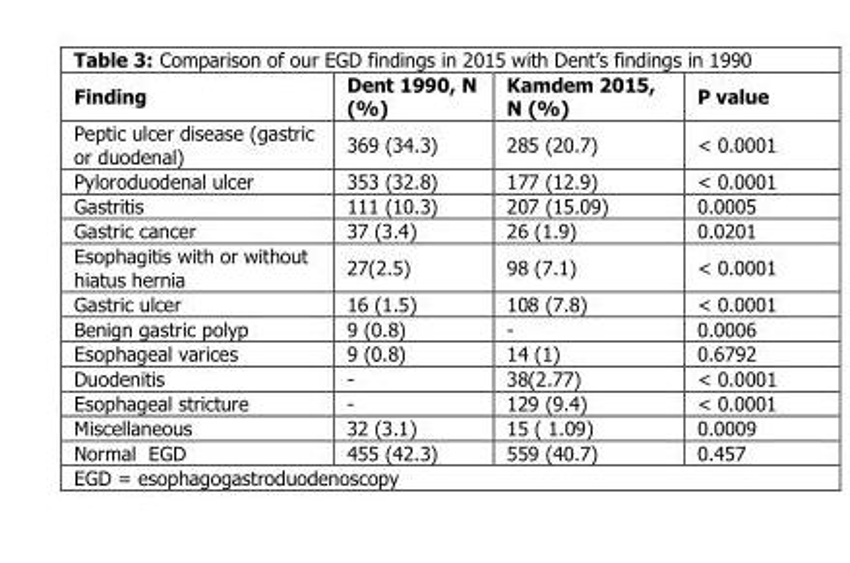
<table><thead><tr><td>Finding</td><td>Dent 1990, N (%)</td><td>Kamdem 2015, N (%)</td><td>P value</td></tr></thead><tbody><tr><td>Peptic ulcer disease (gastric or duodenal)</td><td>369 (34.3)</td><td>285 (20.7)</td><td>&lt; 0.0001</td></tr><tr><td>Pyloroduodenal ulcer</td><td>353 (32.8)</td><td>177 (12.9)</td><td>&lt; 0.0001</td></tr><tr><td>Gastritis</td><td>111 (10.3)</td><td>207 (15.09)</td><td>0.0005</td></tr><tr><td>Gastric cancer</td><td>37 (3.4)</td><td>26 (1.9)</td><td>0.0201</td></tr><tr><td>Esophagitis with or without hiatus hernia</td><td>27(2.5)</td><td>98 (7.1)</td><td>&lt; 0.0001</td></tr><tr><td>Gastric ulcer</td><td>16 (1.5)</td><td>108 (7.8)</td><td>&lt; 0.0001</td></tr><tr><td>Benign gastric polyp</td><td>9 (0.8)</td><td>-</td><td>0.0006</td></tr><tr><td>Esophageal varices</td><td>9 (0.8)</td><td>14 (1)</td><td>0.6792</td></tr><tr><td>Duodenitis</td><td>-</td><td>38(2.77)</td><td>&lt; 0.0001</td></tr><tr><td>Esophageal stricture</td><td>-</td><td>129 (9.4)</td><td>&lt; 0.0001</td></tr><tr><td>Miscellaneous</td><td>32 (3.1)</td><td>15 ( 1.09)</td><td>0.0009</td></tr><tr><td>Normal EGD</td><td>455 (42.3)</td><td>559 (40.7)</td><td>0.457</td></tr><tr><td colspan="4">EGD = esophagogastroduodenoscopy</td></tr></tbody></table>